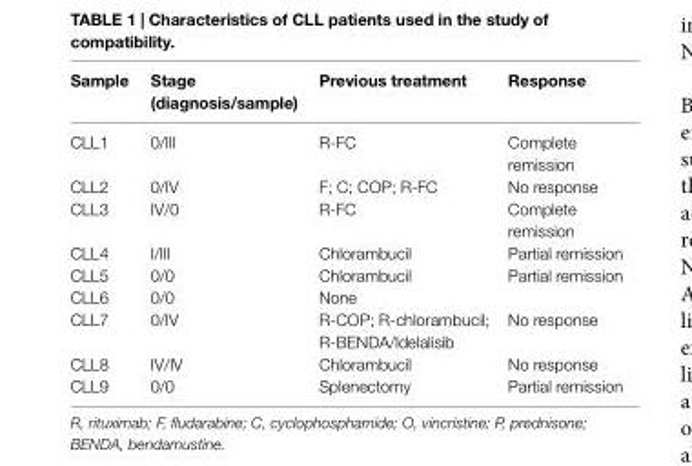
<table><thead><tr><td>sample</td><td>stage (diagnosis/sample)</td><td>Previous treatment</td><td>response</td></tr></thead><tbody><tr><td>CLL1</td><td>0/III</td><td>R-FC</td><td>Complete remission</td></tr><tr><td>CLL2</td><td>0/IV</td><td>F; C; COP; R-FC</td><td>No response</td></tr><tr><td>CLL3</td><td>IV/0</td><td>R-FC</td><td>Complete remission</td></tr><tr><td>CLL4</td><td>I/III</td><td>Chlorambucil</td><td>Partial remission</td></tr><tr><td>CLL5</td><td>0/0</td><td>Chlorambucil</td><td>Partial remission</td></tr><tr><td>CLL6</td><td>0/0</td><td>None</td><td></td></tr><tr><td>CLL7</td><td>0/IV</td><td>R-COP; R-chlorambucil; R-BENDA/Idelalisib</td><td>No response</td></tr><tr><td>CLL8</td><td>IV/IV</td><td>Chlorambucil</td><td>No response</td></tr><tr><td>CLL9</td><td>0/0</td><td>Splenectomy</td><td>Partial remission</td></tr></tbody></table>